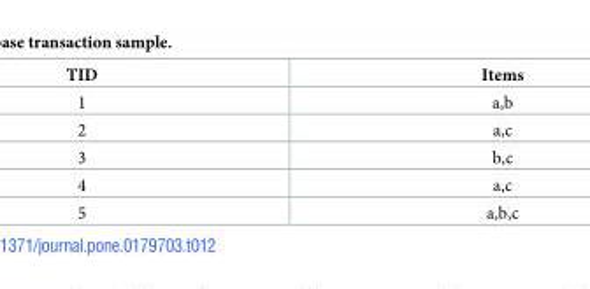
<table><thead><tr><td>TID</td><td>Items</td></tr></thead><tbody><tr><td>1</td><td>a,b</td></tr><tr><td>2</td><td>a,c</td></tr><tr><td>3</td><td>b,c</td></tr><tr><td>4</td><td>a,c</td></tr><tr><td>5</td><td>a,b,c</td></tr></tbody></table>